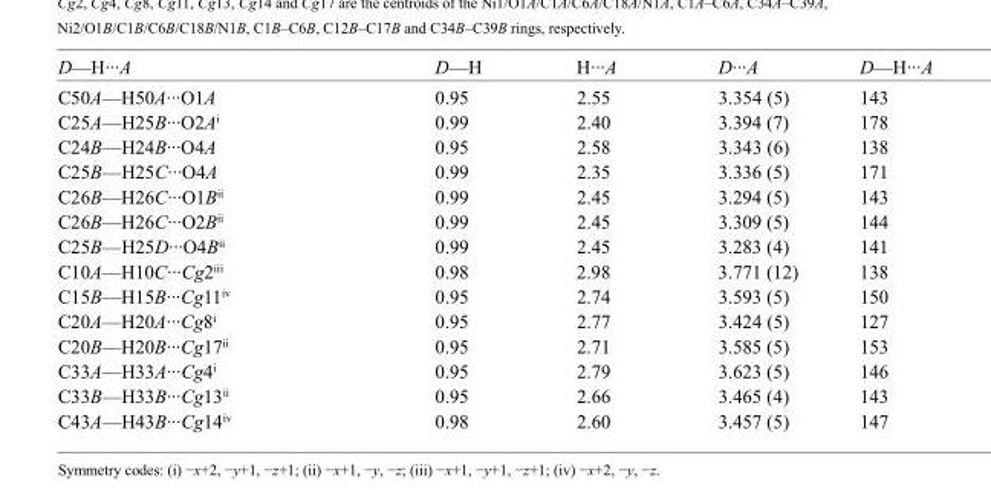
<table><tbody><tr><td>D—H···A</td><td>D—H</td><td>H···A</td><td>D···A</td><td>D—H···A</td></tr><tr><td>C50A—H50A···O1A</td><td>0.95</td><td>2.55</td><td>3.354 (5)</td><td>143</td></tr><tr><td>C25A—H25B···O2A<sup>i</sup></td><td>0.99</td><td>2.40</td><td>3.394 (7)</td><td>178</td></tr><tr><td>C24B—H24B···O4A</td><td>0.95</td><td>2.58</td><td>3.343 (6)</td><td>138</td></tr><tr><td>C25B—H25C···O4A</td><td>0.99</td><td>2.35</td><td>3.336 (5)</td><td>171</td></tr><tr><td>C26B—H26C···O1B<sup>ii</sup></td><td>0.99</td><td>2.45</td><td>3.294 (5)</td><td>143</td></tr><tr><td>C26B—H26C···O2B<sup>ii</sup></td><td>0.99</td><td>2.45</td><td>3.309 (5)</td><td>144</td></tr><tr><td>C25B—H25D···O4B<sup>ii</sup></td><td>0.99</td><td>2.45</td><td>3.283 (4)</td><td>141</td></tr><tr><td>C10A—H10C···Cg2<sup>iii</sup></td><td>0.98</td><td>2.98</td><td>3.771 (12)</td><td>138</td></tr><tr><td>C15B—H15B···Cg11<sup>iv</sup></td><td>0.95</td><td>2.74</td><td>3.593 (5)</td><td>150</td></tr><tr><td>C20A—H20A···Cg8<sup>i</sup></td><td>0.95</td><td>2.77</td><td>3.424 (5)</td><td>127</td></tr><tr><td>C20B—H20B···Cg17<sup>ii</sup></td><td>0.95</td><td>2.71</td><td>3.585 (5)</td><td>153</td></tr><tr><td>C33A—H33A···Cg4<sup>i</sup></td><td>0.95</td><td>2.79</td><td>3.623 (5)</td><td>146</td></tr><tr><td>C33B—H33B···Cg13<sup>ii</sup></td><td>0.95</td><td>2.66</td><td>3.465 (4)</td><td>143</td></tr><tr><td>C43A—H43B···Cg14<sup>iv</sup></td><td>0.98</td><td>2.60</td><td>3.457 (5)</td><td>147</td></tr></tbody></table>